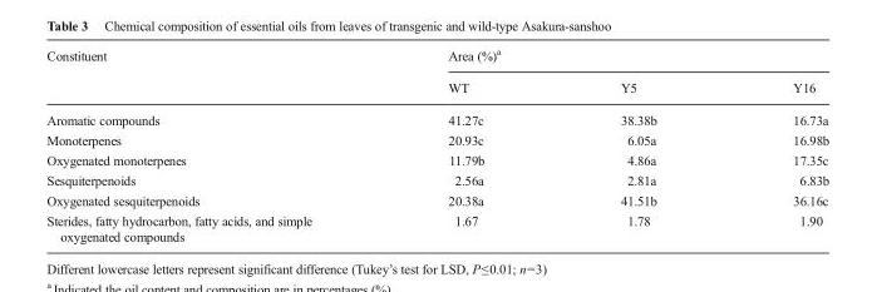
<table><thead><tr><td rowspan="2">Constituent</td><td colspan="3">Area (%)<sup>a</sup></td></tr><tr><td>WT</td><td>Y5</td><td>Y16</td></tr></thead><tbody><tr><td>Aromatic compounds</td><td>41.27c</td><td>38.38b</td><td>16.73a</td></tr><tr><td>Monoterpenes</td><td>20.93c</td><td>6.05a</td><td>16.98b</td></tr><tr><td>Oxygenated monoterpenes</td><td>11.79b</td><td>4.86a</td><td>17.35c</td></tr><tr><td>Sesquiterpenoids</td><td>2.56a</td><td>2.81a</td><td>6.83b</td></tr><tr><td>Oxygenated sesquiterpenoids</td><td>20.38a</td><td>41.51b</td><td>36.16c</td></tr><tr><td>Sterides, fatty hydrocarbon, fatty acids, and simple oxygenated compounds</td><td>1.67</td><td>1.78</td><td>1.90</td></tr></tbody></table>